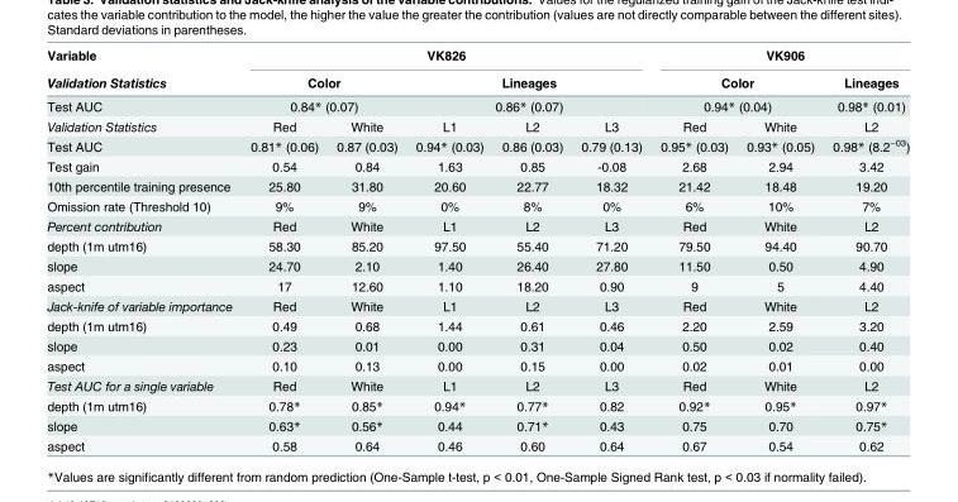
<table><thead><tr><td rowspan="4">Variable Validation Statistics Test AUC Validation Statistics</td><td colspan="5">VK826</td><td colspan="3">VK906</td></tr><tr><td rowspan="2" colspan="2">Color 0.84* (0.07)</td><td rowspan="2" colspan="3">Lineages 0.86* (0.07)</td><td rowspan="2" colspan="2">Color 0.94* (0.04)</td><td rowspan="3">Lineages 0.98* (0.01) L2</td></tr><tr></tr><tr><td>Red</td><td>White</td><td>L1</td><td>L2</td><td>L3</td><td>Red</td><td>White</td></tr></thead><tbody><tr><td>Test AUC</td><td>0.81* (0.06)</td><td>0.87 (0.03)</td><td>0.94* (0.03)</td><td>0.86 (0.03)</td><td>0.79 (0.13)</td><td>0.95* (0.03)</td><td>0.93* (0.05)</td><td>0.98* (8.2<sup>−03</sup>)</td></tr><tr><td>Test gain</td><td>0.54</td><td>0.84</td><td>1.63</td><td>0.85</td><td>-0.08</td><td>2.68</td><td>2.94</td><td>3.42</td></tr><tr><td>10th percentile training presence</td><td>25.80</td><td>31.80</td><td>20.60</td><td>22.77</td><td>18.32</td><td>21.42</td><td>18.48</td><td>19.20</td></tr><tr><td>Omission rate (Threshold 10)</td><td>9%</td><td>9%</td><td>0%</td><td>8%</td><td>0%</td><td>6%</td><td>10%</td><td>7%</td></tr><tr><td>Percent contribution</td><td>Red</td><td>White</td><td>L1</td><td>L2</td><td>L3</td><td>Red</td><td>White</td><td>L2</td></tr><tr><td>depth (1m utm16)</td><td>58.30</td><td>85.20</td><td>97.50</td><td>55.40</td><td>71.20</td><td>79.50</td><td>94.40</td><td>90.70</td></tr><tr><td>slope</td><td>24.70</td><td>2.10</td><td>1.40</td><td>26.40</td><td>27.80</td><td>11.50</td><td>0.50</td><td>4.90</td></tr><tr><td>aspect</td><td>17</td><td>12.60</td><td>1.10</td><td>18.20</td><td>0.90</td><td>9</td><td>5</td><td>4.40</td></tr><tr><td>Jack-knife of variable importance</td><td>Red</td><td>White</td><td>L1</td><td>L2</td><td>L3</td><td>Red</td><td>White</td><td>L2</td></tr><tr><td>depth (1m utm16)</td><td>0.49</td><td>0.68</td><td>1.44</td><td>0.61</td><td>0.46</td><td>2.20</td><td>2.59</td><td>3.20</td></tr><tr><td>slope</td><td>0.23</td><td>0.01</td><td>0.00</td><td>0.31</td><td>0.04</td><td>0.50</td><td>0.02</td><td>0.40</td></tr><tr><td>aspect</td><td>0.10</td><td>0.13</td><td>0.00</td><td>0.15</td><td>0.00</td><td>0.02</td><td>0.01</td><td>0.00</td></tr><tr><td>Test AUC for a single variable</td><td>Red</td><td>White</td><td>L1</td><td>L2</td><td>L3</td><td>Red</td><td>White</td><td>L2</td></tr><tr><td>depth (1m utm16)</td><td>0.78*</td><td>0.85*</td><td>0.94*</td><td>0.77*</td><td>0.82</td><td>0.92*</td><td>0.95*</td><td>0.97*</td></tr><tr><td>slope</td><td>0.63*</td><td>0.56*</td><td>0.44</td><td>0.71*</td><td>0.43</td><td>0.75</td><td>0.70</td><td>0.75*</td></tr><tr><td>aspect</td><td>0.58</td><td>0.64</td><td>0.46</td><td>0.60</td><td>0.64</td><td>0.67</td><td>0.54</td><td>0.62</td></tr></tbody></table>